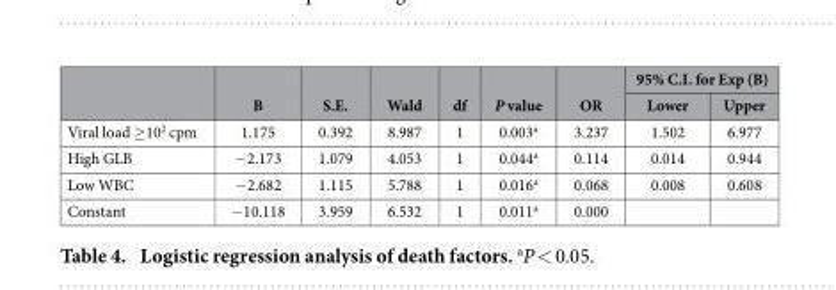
<table><thead><tr><td rowspan="2"></td><td rowspan="2">B</td><td rowspan="2">S.E.</td><td rowspan="2">Wald</td><td rowspan="2">df</td><td rowspan="2">P value</td><td rowspan="2">OR</td><td colspan="2">95% C.I. for Exp (B)</td></tr><tr><td>Lower</td><td>Upper</td></tr></thead><tbody><tr><td>Viral load ≥ 10<sup>2</sup> cpm</td><td>1.175</td><td>0.392</td><td>8.987</td><td>1</td><td>0.003<sup>a</sup></td><td>3.237</td><td>1.502</td><td>6.977</td></tr><tr><td>High GLB</td><td>− 2.173</td><td>1.079</td><td>4.053</td><td>1</td><td>0.044<sup>a</sup></td><td>0.114</td><td>0.014</td><td>0.944</td></tr><tr><td>Low WBC</td><td>− 2.682</td><td>1.115</td><td>5.788</td><td>1</td><td>0.016<sup>a</sup></td><td>0.068</td><td>0.008</td><td>0.608</td></tr><tr><td>Constant</td><td>− 10.118</td><td>3.959</td><td>6.532</td><td>1</td><td>0.011<sup>a</sup></td><td>0.000</td><td></td><td></td></tr></tbody></table>